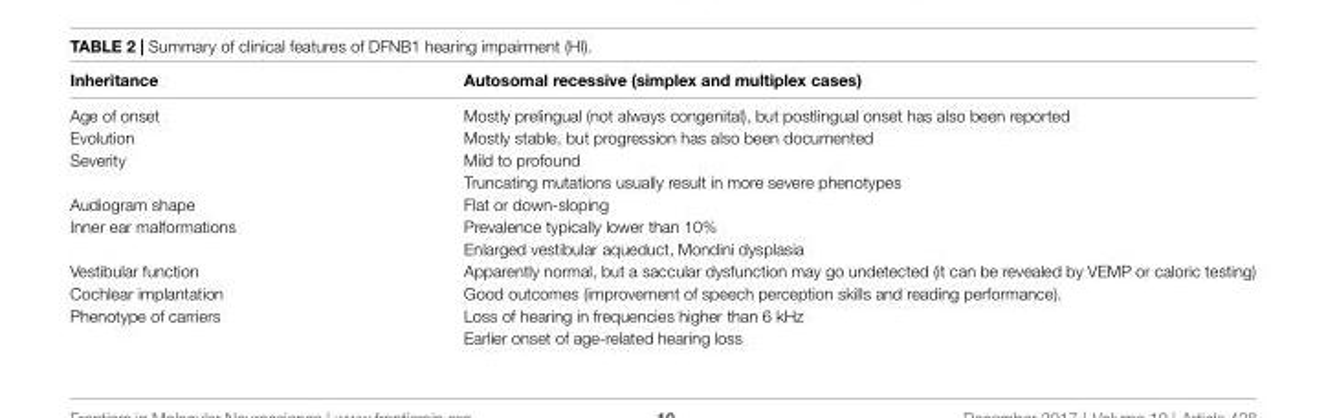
<table><thead><tr><td>Inheritance</td><td>Autosomal recessive (simplex and multiplex cases)</td></tr></thead><tbody><tr><td>Age of onset</td><td>Mostly prelingual (not always congenital), but postlingual onset has also been reported</td></tr><tr><td>Evolution</td><td>Mostly stable, but progression has also been documented</td></tr><tr><td rowspan="2">Severity</td><td>Mild to profound</td></tr><tr><td>Truncating mutations usually result in more severe phenotypes</td></tr><tr><td>Audiogram shape</td><td>Flat or down-sloping</td></tr><tr><td rowspan="2">Inner ear malformations</td><td>Prevalence typically lower than 10%</td></tr><tr><td>Enlarged vestibular aqueduct, Mondini dysplasia</td></tr><tr><td>Vestibular function</td><td>Apparently normal, but a saccular dysfunction may go undetected (it can be revealed by VEMP or caloric testing)</td></tr><tr><td>Cochlear implantation</td><td>Good outcomes (improvement of speech perception skills and reading performance).</td></tr><tr><td rowspan="2">Phenotype of carriers</td><td>Loss of hearing in frequencies higher than 6 kHz</td></tr><tr><td>Earlier onset of age-related hearing loss</td></tr></tbody></table>